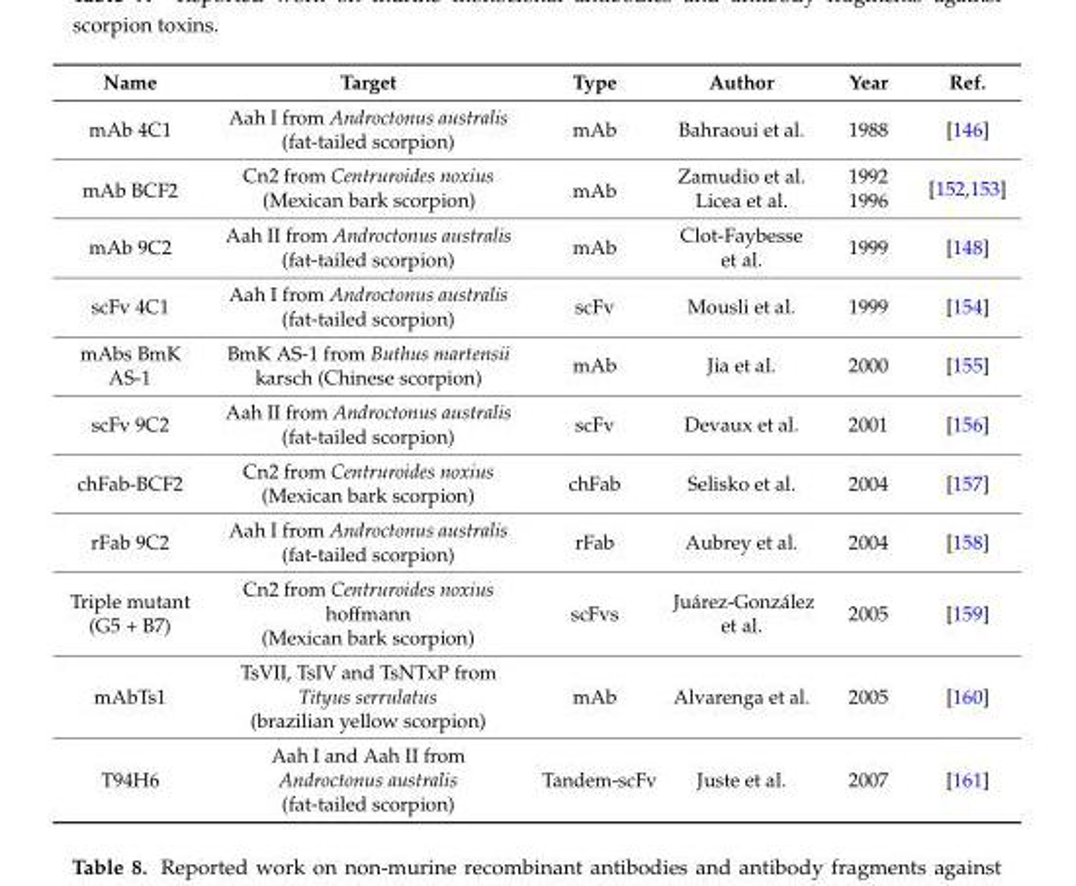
<table><thead><tr><td>Name</td><td>Target</td><td>Type</td><td>Author</td><td>Year</td><td>Ref.</td></tr></thead><tbody><tr><td>mAb 4C1</td><td>Aah I from Androctonus australis (fat-tailed scorpion)</td><td>mAb</td><td>Bahraoui et al.</td><td>1988</td><td>[146]</td></tr><tr><td rowspan="2">mAb BCF2</td><td rowspan="2">Cn2 from Centruroides noxius (Mexican bark scorpion)</td><td rowspan="2">mAb</td><td>Zamudio et al.</td><td>1992</td><td rowspan="2">[152,153]</td></tr><tr><td>Licea et al.</td><td>1996</td></tr><tr><td>mAb 9C2</td><td>Aah II from Androctonus australis (fat-tailed scorpion)</td><td>mAb</td><td>Clot-Faybesse et al.</td><td>1999</td><td>[148]</td></tr><tr><td>scFv 4C1</td><td>Aah I from Androctonus australis (fat-tailed scorpion)</td><td>scFv</td><td>Mousli et al.</td><td>1999</td><td>[154]</td></tr><tr><td>mAbs BmK AS-1</td><td>BmK AS-1 from Buthus martensii karsch (Chinese scorpion)</td><td>mAb</td><td>Jia et al.</td><td>2000</td><td>[155]</td></tr><tr><td>scFv 9C2</td><td>Aah II from Androctonus australis (fat-tailed scorpion)</td><td>scFv</td><td>Devaux et al.</td><td>2001</td><td>[156]</td></tr><tr><td>chFab-BCF2</td><td>Cn2 from Centruroides noxius (Mexican bark scorpion)</td><td>chFab</td><td>Selisko et al.</td><td>2004</td><td>[157]</td></tr><tr><td>rFab 9C2</td><td>Aah I from Androctonus australis (fat-tailed scorpion)</td><td>rFab</td><td>Aubrey et al.</td><td>2004</td><td>[158]</td></tr><tr><td>Triple mutant (G5 + B7)</td><td>Cn2 from Centruroides noxius hoffmann (Mexican bark scorpion)</td><td>scFvs</td><td>Juárez-González et al.</td><td>2005</td><td>[159]</td></tr><tr><td>mAbTs1</td><td>TsVII, TsIV and TsNTxP from Tityus serrulatus (brazilian yellow scorpion)</td><td>mAb</td><td>Alvarenga et al.</td><td>2005</td><td>[160]</td></tr><tr><td>T94H6</td><td>Aah I and Aah II from Androctonus australis (fat-tailed scorpion)</td><td>Tandem-scFv</td><td>Juste et al.</td><td>2007</td><td>[161]</td></tr></tbody></table>